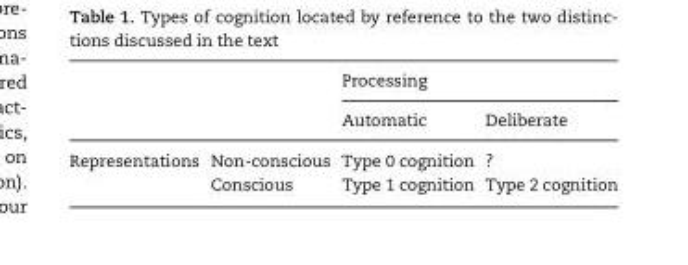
<table><thead><tr><td rowspan="2"></td><td rowspan="2"></td><td colspan="2">Processing</td></tr><tr><td>Automatic</td><td>Deliberate</td></tr></thead><tbody><tr><td rowspan="2">Representations</td><td>Non-conscious</td><td>Type 0 cognition</td><td>?</td></tr><tr><td>Conscious</td><td>Type 1 cognition</td><td>Type 2 cognition</td></tr></tbody></table>